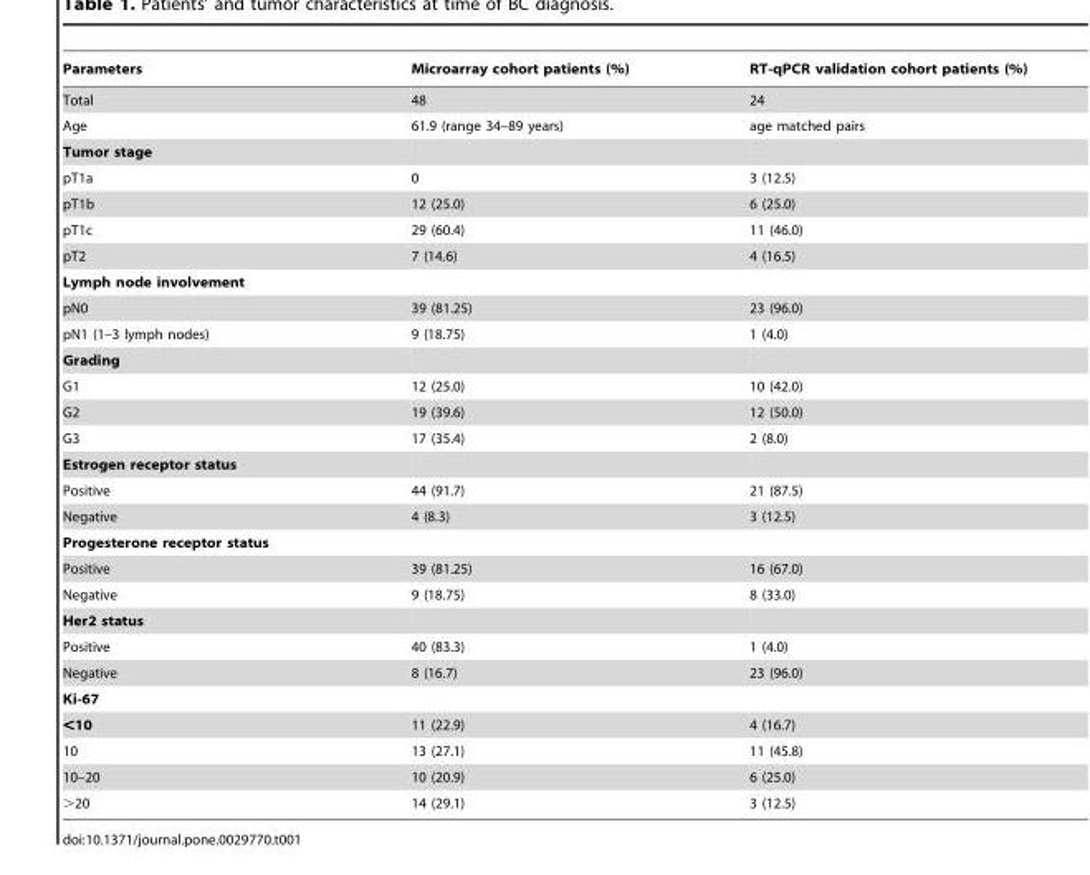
<table><thead><tr><td>Parameters</td><td>Microarray cohort patients (%)</td><td>RT-qPCR validation cohort patients (%)</td></tr></thead><tbody><tr><td>Total</td><td>48</td><td>24</td></tr><tr><td>Age</td><td>61.9 (range 34–89 years)</td><td>age matched pairs</td></tr><tr><td colspan="3">Tumor stage</td></tr><tr><td>pT1a</td><td>0</td><td>3 (12.5)</td></tr><tr><td>pT1b</td><td>12 (25.0)</td><td>6 (25.0)</td></tr><tr><td>pT1c</td><td>29 (60.4)</td><td>11 (46.0)</td></tr><tr><td>pT2</td><td>7 (14.6)</td><td>4 (16.5)</td></tr><tr><td colspan="3">Lymph node involvement</td></tr><tr><td>pN0</td><td>39 (81.25)</td><td>23 (96.0)</td></tr><tr><td>pN1 (1–3 lymph nodes)</td><td>9 (18.75)</td><td>1 (4.0)</td></tr><tr><td colspan="3">Grading</td></tr><tr><td>G1</td><td>12 (25.0)</td><td>10 (42.0)</td></tr><tr><td>G2</td><td>19 (39.6)</td><td>12 (50.0)</td></tr><tr><td>G3</td><td>17 (35.4)</td><td>2 (8.0)</td></tr><tr><td colspan="3">Estrogen receptor status</td></tr><tr><td>Positive</td><td>44 (91.7)</td><td>21 (87.5)</td></tr><tr><td>Negative</td><td>4 (8.3)</td><td>3 (12.5)</td></tr><tr><td colspan="3">Progesterone receptor status</td></tr><tr><td>Positive</td><td>39 (81.25)</td><td>16 (67.0)</td></tr><tr><td>Negative</td><td>9 (18.75)</td><td>8 (33.0)</td></tr><tr><td colspan="3">Her2 status</td></tr><tr><td>Positive</td><td>40 (83.3)</td><td>1 (4.0)</td></tr><tr><td>Negative</td><td>8 (16.7)</td><td>23 (96.0)</td></tr><tr><td colspan="3">Ki-67</td></tr><tr><td>&lt;10</td><td>11 (22.9)</td><td>4 (16.7)</td></tr><tr><td>10</td><td>13 (27.1)</td><td>11 (45.8)</td></tr><tr><td>10–20</td><td>10 (20.9)</td><td>6 (25.0)</td></tr><tr><td>&gt;20</td><td>14 (29.1)</td><td>3 (12.5)</td></tr></tbody></table>